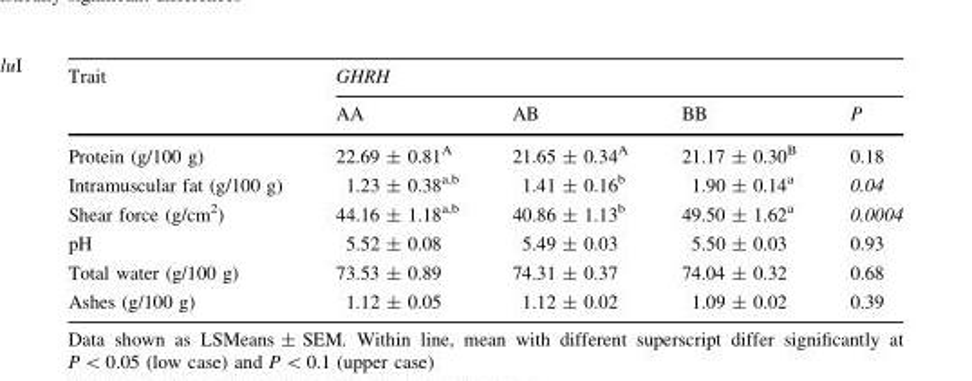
<table><thead><tr><td rowspan="2">Trait</td><td colspan="4">GHRH</td></tr><tr><td>AA</td><td>AB</td><td>BB</td><td>P</td></tr></thead><tbody><tr><td>Protein (g/100 g)</td><td>22.69 ± 0.81<sup>A</sup></td><td>21.65 ± 0.34<sup>A</sup></td><td>21.17 ± 0.30<sup>B</sup></td><td>0.18</td></tr><tr><td>Intramuscular fat (g/100 g)</td><td>1.23 ± 0.38<sup>a,b</sup></td><td>1.41 ± 0.16<sup>b</sup></td><td>1.90 ± 0.14<sup>a</sup></td><td>0.04</td></tr><tr><td>Shear force (g/cm<sup>2</sup>)</td><td>44.16 ± 1.18<sup>a,b</sup></td><td>40.86 ± 1.13<sup>b</sup></td><td>49.50 ± 1.62<sup>a</sup></td><td>0.0004</td></tr><tr><td>pH</td><td>5.52 ± 0.08</td><td>5.49 ± 0.03</td><td>5.50 ± 0.03</td><td>0.93</td></tr><tr><td>Total water (g/100 g)</td><td>73.53 ± 0.89</td><td>74.31 ± 0.37</td><td>74.04 ± 0.32</td><td>0.68</td></tr><tr><td>Ashes (g/100 g)</td><td>1.12 ± 0.05</td><td>1.12 ± 0.02</td><td>1.09 ± 0.02</td><td>0.39</td></tr></tbody></table>